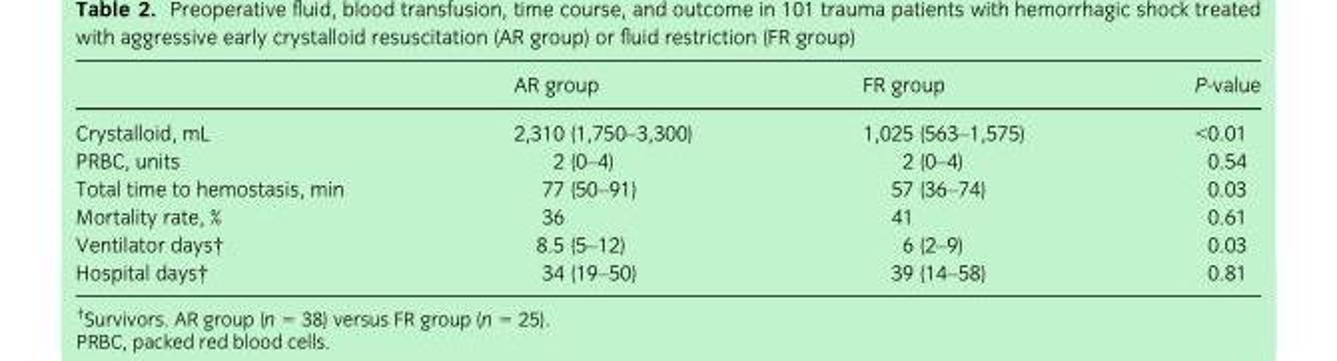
<table><thead><tr><td></td><td>AR group</td><td>FR group</td><td>P-value</td></tr></thead><tbody><tr><td>Crystalloid, mL</td><td>2,310 (1,750–3,300)</td><td>1,025 (563–1,575)</td><td>&lt;0.01</td></tr><tr><td>PRBC, units</td><td>2 (0–4)</td><td>2 (0–4)</td><td>0.54</td></tr><tr><td>Total time to hemostasis, min</td><td>77 (50–91)</td><td>57 (36–74)</td><td>0.03</td></tr><tr><td>Mortality rate, %</td><td>36</td><td>41</td><td>0.61</td></tr><tr><td>Ventilator days†</td><td>8.5 (5–12)</td><td>6 (2–9)</td><td>0.03</td></tr><tr><td>Hospital days†</td><td>34 (19–50)</td><td>39 (14–58)</td><td>0.81</td></tr></tbody></table>